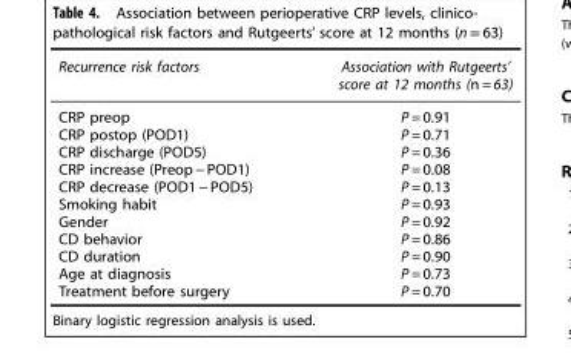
<table><thead><tr><td>Recurrence risk factors</td><td>Association with Rutgeerts’ score at 12 months (n = 63)</td></tr></thead><tbody><tr><td>CRP preop</td><td>P = 0.91</td></tr><tr><td>CRP postop (POD1)</td><td>P = 0.71</td></tr><tr><td>CRP discharge (POD5)</td><td>P = 0.36</td></tr><tr><td>CRP increase (Preop − POD1)</td><td>P = 0.08</td></tr><tr><td>CRP decrease (POD1 − POD5)</td><td>P = 0.13</td></tr><tr><td>Smoking habit</td><td>P = 0.93</td></tr><tr><td>Gender</td><td>P = 0.92</td></tr><tr><td>CD behavior</td><td>P = 0.86</td></tr><tr><td>CD duration</td><td>P = 0.90</td></tr><tr><td>Age at diagnosis</td><td>P = 0.73</td></tr><tr><td>Treatment before surgery</td><td>P = 0.70</td></tr></tbody></table>